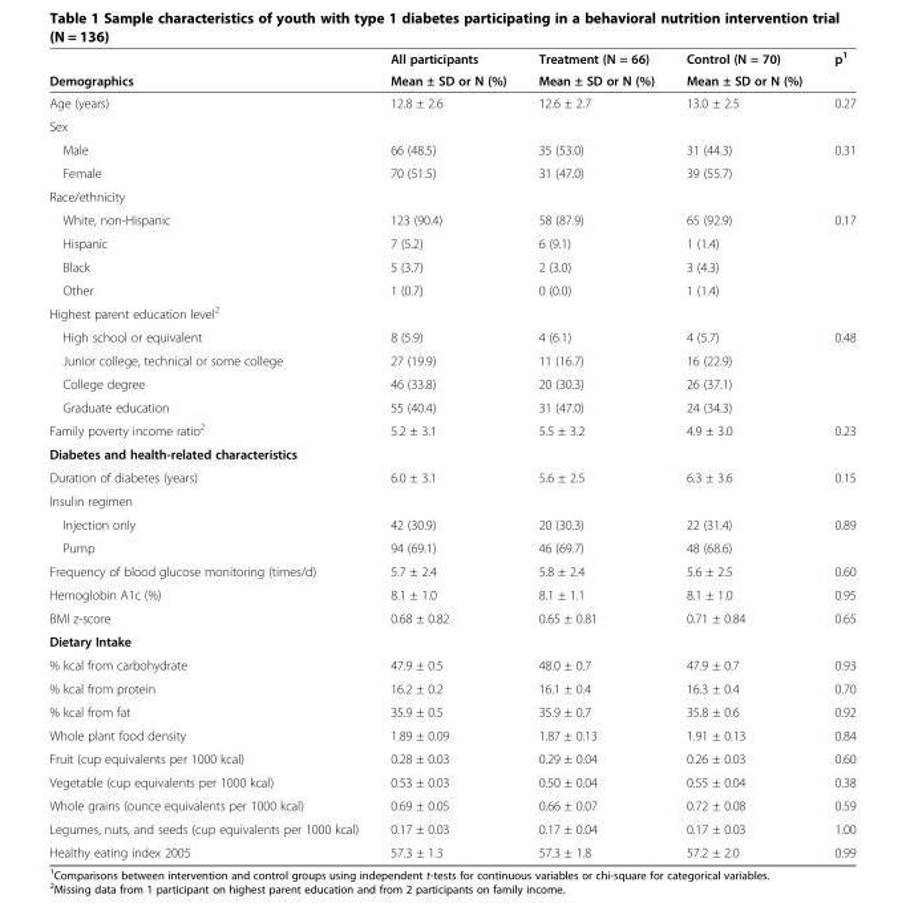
<table><thead><tr><td rowspan="2">Demographics</td><td rowspan="2">All participants Mean ± SD or N (%)</td><td rowspan="2">Treatment (N = 66) Mean ± SD or N (%)</td><td rowspan="2">Control (N = 70) Mean ± SD or N (%)</td><td rowspan="2">p<sup>1</sup></td></tr><tr></tr></thead><tbody><tr><td>Age (years)</td><td>12.8 ± 2.6</td><td>12.6 ± 2.7</td><td>13.0 ± 2.5</td><td>0.27</td></tr><tr><td colspan="5">Sex</td></tr><tr><td>Male</td><td>66 (48.5)</td><td>35 (53.0)</td><td>31 (44.3)</td><td>0.31</td></tr><tr><td>Female</td><td>70 (51.5)</td><td>31 (47.0)</td><td>39 (55.7)</td><td></td></tr><tr><td colspan="5">Race/ethnicity</td></tr><tr><td>White, non-Hispanic</td><td>123 (90.4)</td><td>58 (87.9)</td><td>65 (92.9)</td><td>0.17</td></tr><tr><td>Hispanic</td><td>7 (5.2)</td><td>6 (9.1)</td><td>1 (1.4)</td><td></td></tr><tr><td>Black</td><td>5 (3.7)</td><td>2 (3.0)</td><td>3 (4.3)</td><td></td></tr><tr><td>Other</td><td>1 (0.7)</td><td>0 (0.0)</td><td>1 (1.4)</td><td></td></tr><tr><td colspan="5">Highest parent education level<sup>2</sup></td></tr><tr><td>High school or equivalent</td><td>8 (5.9)</td><td>4 (6.1)</td><td>4 (5.7)</td><td>0.48</td></tr><tr><td>Junior college, technical or some college</td><td>27 (19.9)</td><td>11 (16.7)</td><td>16 (22.9)</td><td></td></tr><tr><td>College degree</td><td>46 (33.8)</td><td>20 (30.3)</td><td>26 (37.1)</td><td></td></tr><tr><td>Graduate education</td><td>55 (40.4)</td><td>31 (47.0)</td><td>24 (34.3)</td><td></td></tr><tr><td>Family poverty income ratio<sup>2</sup></td><td>5.2 ± 3.1</td><td>5.5 ± 3.2</td><td>4.9 ± 3.0</td><td>0.23</td></tr><tr><td colspan="5">Diabetes and health-related characteristics</td></tr><tr><td>Duration of diabetes (years)</td><td>6.0 ± 3.1</td><td>5.6 ± 2.5</td><td>6.3 ± 3.6</td><td>0.15</td></tr><tr><td colspan="5">Insulin regimen</td></tr><tr><td>Injection only</td><td>42 (30.9)</td><td>20 (30.3)</td><td>22 (31.4)</td><td>0.89</td></tr><tr><td>Pump</td><td>94 (69.1)</td><td>46 (69.7)</td><td>48 (68.6)</td><td></td></tr><tr><td>Frequency of blood glucose monitoring (times/d)</td><td>5.7 ± 2.4</td><td>5.8 ± 2.4</td><td>5.6 ± 2.5</td><td>0.60</td></tr><tr><td>Hemoglobin A1c (%)</td><td>8.1 ± 1.0</td><td>8.1 ± 1.1</td><td>8.1 ± 1.0</td><td>0.95</td></tr><tr><td>BMI z-score</td><td>0.68 ± 0.82</td><td>0.65 ± 0.81</td><td>0.71 ± 0.84</td><td>0.65</td></tr><tr><td colspan="5">Dietary Intake</td></tr><tr><td>% kcal from carbohydrate</td><td>47.9 ± 0.5</td><td>48.0 ± 0.7</td><td>47.9 ± 0.7</td><td>0.93</td></tr><tr><td>% kcal from protein</td><td>16.2 ± 0.2</td><td>16.1 ± 0.4</td><td>16.3 ± 0.4</td><td>0.70</td></tr><tr><td>% kcal from fat</td><td>35.9 ± 0.5</td><td>35.9 ± 0.7</td><td>35.8 ± 0.6</td><td>0.92</td></tr><tr><td>Whole plant food density</td><td>1.89 ± 0.09</td><td>1.87 ± 0.13</td><td>1.91 ± 0.13</td><td>0.84</td></tr><tr><td>Fruit (cup equivalents per 1000 kcal)</td><td>0.28 ± 0.03</td><td>0.29 ± 0.04</td><td>0.26 ± 0.03</td><td>0.60</td></tr><tr><td>Vegetable (cup equivalents per 1000 kcal)</td><td>0.53 ± 0.03</td><td>0.50 ± 0.04</td><td>0.55 ± 0.04</td><td>0.38</td></tr><tr><td>Whole grains (ounce equivalents per 1000 kcal)</td><td>0.69 ± 0.05</td><td>0.66 ± 0.07</td><td>0.72 ± 0.08</td><td>0.59</td></tr><tr><td>Legumes, nuts, and seeds (cup equivalents per 1000 kcal)</td><td>0.17 ± 0.03</td><td>0.17 ± 0.04</td><td>0.17 ± 0.03</td><td>1.00</td></tr><tr><td>Healthy eating index 2005</td><td>57.3 ± 1.3</td><td>57.3 ± 1.8</td><td>57.2 ± 2.0</td><td>0.99</td></tr></tbody></table>